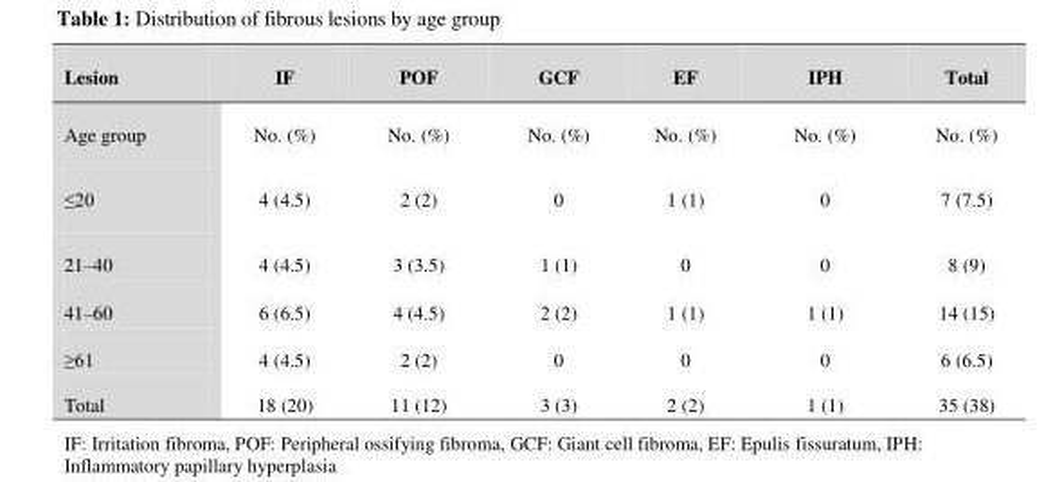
<table><thead><tr><td>Lesion</td><td>IF</td><td>POF</td><td>GCF</td><td>EF</td><td>IPH</td><td>Total</td></tr></thead><tbody><tr><td>Age group</td><td>No. (%)</td><td>No. (%)</td><td>No. (%)</td><td>No. (%)</td><td>No. (%)</td><td>No. (%)</td></tr><tr><td>≤20</td><td>4 (4.5)</td><td>2 (2)</td><td>0</td><td>1 (1)</td><td>0</td><td>7 (7.5)</td></tr><tr><td>21–40</td><td>4 (4.5)</td><td>3 (3.5)</td><td>1 (1)</td><td>0</td><td>0</td><td>8 (9)</td></tr><tr><td>41–60</td><td>6 (6.5)</td><td>4 (4.5)</td><td>2 (2)</td><td>1 (1)</td><td>1 (1)</td><td>14 (15)</td></tr><tr><td>≥61</td><td>4 (4.5)</td><td>2 (2)</td><td>0</td><td>0</td><td>0</td><td>6 (6.5)</td></tr><tr><td>Total</td><td>18 (20)</td><td>11 (12)</td><td>3 (3)</td><td>2 (2)</td><td>1 (1)</td><td>35 (38)</td></tr></tbody></table>